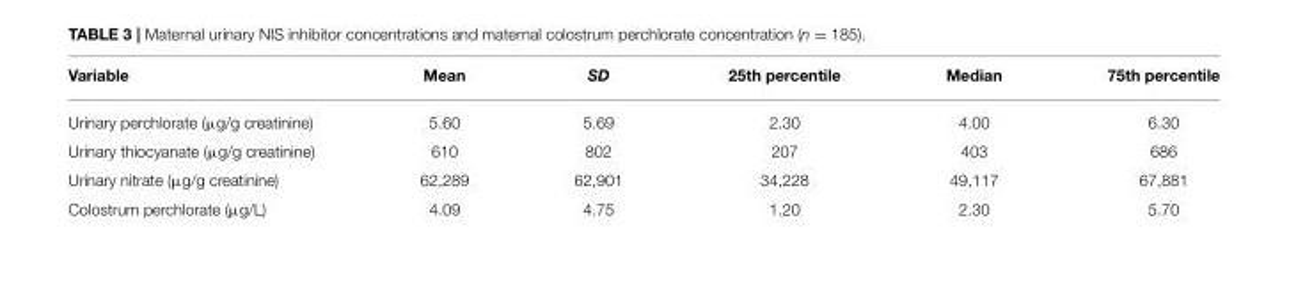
<table><thead><tr><td>Variable</td><td>Mean</td><td>SD</td><td>25th percentile</td><td>Median</td><td>75th percentile</td></tr></thead><tbody><tr><td>Urinary perchlorate (µg/g creatinine)</td><td>5.60</td><td>5.69</td><td>2.30</td><td>4.00</td><td>6.30</td></tr><tr><td>Urinary thiocyanate (µg/g creatinine)</td><td>610</td><td>802</td><td>207</td><td>403</td><td>686</td></tr><tr><td>Urinary nitrate (µg/g creatinine)</td><td>62,289</td><td>62,901</td><td>34,228</td><td>49,117</td><td>67,881</td></tr><tr><td>Colostrum perchlorate (µg/L)</td><td>4.09</td><td>4.75</td><td>1.20</td><td>2.30</td><td>5.70</td></tr></tbody></table>